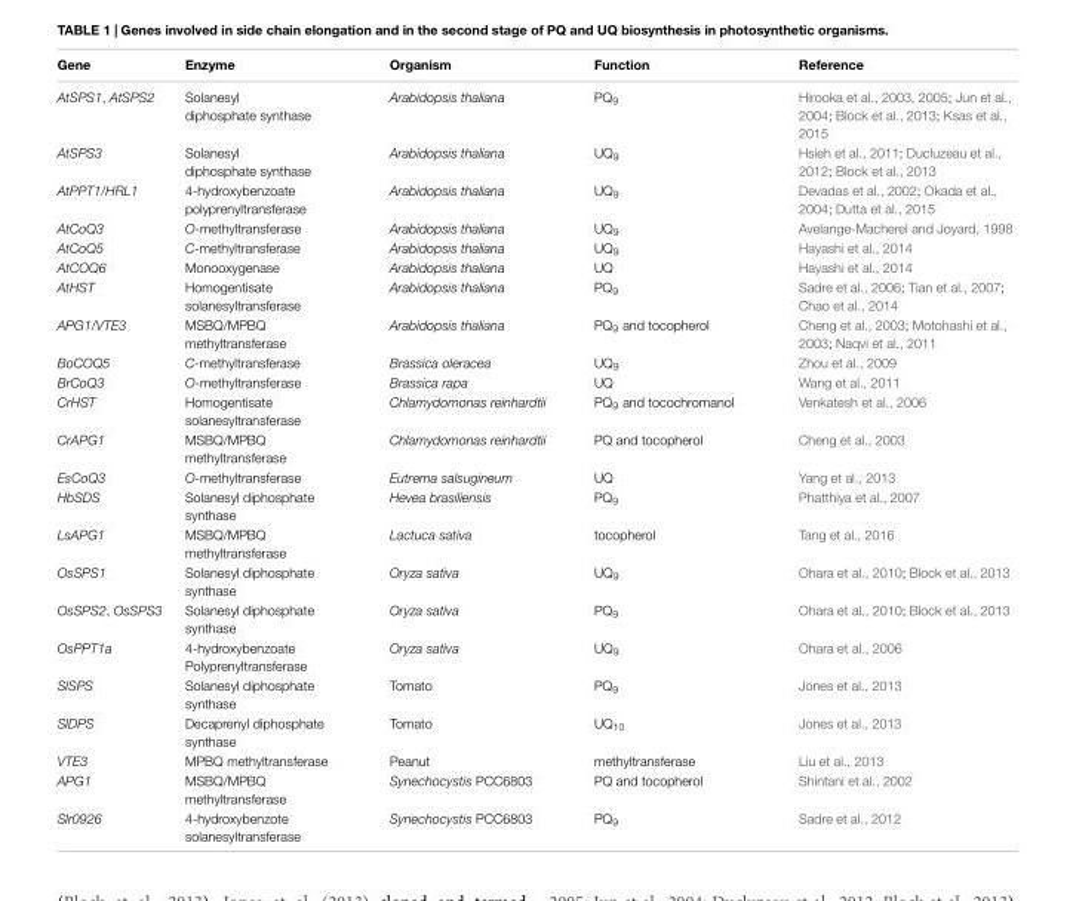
<table><thead><tr><td>Gene</td><td>Enzyme</td><td>Organism</td><td>Function</td><td>Reference</td></tr></thead><tbody><tr><td>AtSPS1, AtSPS2</td><td>Solanesyl diphosphate synthase</td><td>Arabidopsis thaliana</td><td>PQ<sub>9</sub></td><td>Hirooka et al., 2003, 2005; Jun et al., 2004; Block et al., 2013; Ksas et al., 2015</td></tr><tr><td>AtSPS3</td><td>Solanesyl diphosphate synthase</td><td>Arabidopsis thaliana</td><td>UQ<sub>9</sub></td><td>Hsieh et al., 2011; Ducluzeau et al., 2012; Block et al., 2013</td></tr><tr><td>AtPPT1/HRL1</td><td>4-hydroxybenzoate polyprenyltransferase</td><td>Arabidopsis thaliana</td><td>UQ<sub>9</sub></td><td>Devadas et al., 2002; Okada et al., 2004; Dutta et al., 2015</td></tr><tr><td>AtCoQ3</td><td>O-methyltransferase</td><td>Arabidopsis thaliana</td><td>UQ<sub>9</sub></td><td>Avelange-Macherel and Joyard, 1998</td></tr><tr><td>AtCoQ5</td><td>C-methyltransferase</td><td>Arabidopsis thaliana</td><td>UQ<sub>9</sub></td><td>Hayashi et al., 2014</td></tr><tr><td>AtCOQ6</td><td>Monooxygenase</td><td>Arabidopsis thaliana</td><td>UQ</td><td>Hayashi et al., 2014</td></tr><tr><td>AtHST</td><td>Homogentisate solanesyltransferase</td><td>Arabidopsis thaliana</td><td>PQ<sub>9</sub></td><td>Sadre et al., 2006; Tian et al., 2007; Chao et al., 2014</td></tr><tr><td>APG1/VTE3</td><td>MSBQ/MPBQ methyltransferase</td><td>Arabidopsis thaliana</td><td>PQ<sub>9</sub> and tocopherol</td><td>Cheng et al., 2003; Motohashi et al., 2003; Naqvi et al., 2011</td></tr><tr><td>BoCOQ5</td><td>C-methyltransferase</td><td>Brassica oleracea</td><td>UQ<sub>9</sub></td><td>Zhou et al., 2009</td></tr><tr><td>BrCoQ3</td><td>O-methyltransferase</td><td>Brassica rapa</td><td>UQ</td><td>Wang et al., 2011</td></tr><tr><td>CrHST</td><td>Homogentisate solanesyltransferase</td><td>Chlamydomonas reinhardtii</td><td>PQ<sub>9</sub> and tocochromanol</td><td>Venkatesh et al., 2006</td></tr><tr><td>CrAPG1</td><td>MSBQ/MPBQ methyltransferase</td><td>Chlamydomonas reinhardtii</td><td>PQ and tocopherol</td><td>Cheng et al., 2003</td></tr><tr><td>EsCoQ3</td><td>O-methyltransferase</td><td>Eutrema salsugineum</td><td>UQ</td><td>Yang et al., 2013</td></tr><tr><td>HbSDS</td><td>Solanesyl diphosphate synthase</td><td>Hevea brasiliensis</td><td>PQ<sub>9</sub></td><td>Phatthiya et al., 2007</td></tr><tr><td>LsAPG1</td><td>MSBQ/MPBQ methyltransferase</td><td>Lactuca sativa</td><td>tocopherol</td><td>Tang et al., 2016</td></tr><tr><td>OsSPS1</td><td>Solanesyl diphosphate synthase</td><td>Oryza sativa</td><td>UQ<sub>9</sub></td><td>Ohara et al., 2010; Block et al., 2013</td></tr><tr><td>OsSPS2, OsSPS3</td><td>Solanesyl diphosphate synthase</td><td>Oryza sativa</td><td>PQ<sub>9</sub></td><td>Ohara et al., 2010; Block et al., 2013</td></tr><tr><td>OsPPT1a</td><td>4-hydroxybenzoate Polyprenyltransferase</td><td>Oryza sativa</td><td>UQ<sub>9</sub></td><td>Ohara et al., 2006</td></tr><tr><td>SlSPS</td><td>Solanesyl diphosphate synthase</td><td>Tomato</td><td>PQ<sub>9</sub></td><td>Jones et al., 2013</td></tr><tr><td>SlDPS</td><td>Decaprenyl diphosphate synthase</td><td>Tomato</td><td>UQ<sub>10</sub></td><td>Jones et al., 2013</td></tr><tr><td>VTE3</td><td>MPBQ methyltransferase</td><td>Peanut</td><td>methyltransferase</td><td>Liu et al., 2013</td></tr><tr><td>APG1</td><td>MSBQ/MPBQ methyltransferase</td><td>Synechocystis PCC6803</td><td>PQ and tocopherol</td><td>Shintani et al., 2002</td></tr><tr><td>Slr0926</td><td>4-hydroxybenzote solanesyltransferase</td><td>Synechocystis PCC6803</td><td>PQ<sub>9</sub></td><td>Sadre et al., 2012</td></tr></tbody></table>